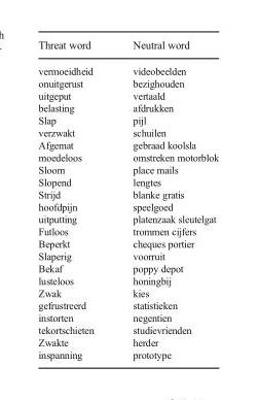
<table><thead><tr><td>Threat word</td><td>Neutral word</td></tr></thead><tbody><tr><td>vermoeidheid</td><td>videobeelden</td></tr><tr><td>onuitgerust</td><td>bezighouden</td></tr><tr><td>uitgeput</td><td>vertaald</td></tr><tr><td>belasting</td><td>afdrukken</td></tr><tr><td>Slap</td><td>pijl</td></tr><tr><td>verzwakt</td><td>schuilen</td></tr><tr><td>Afgemat</td><td>gebraad koolsla</td></tr><tr><td>moedeloos</td><td>omstreken motorblok</td></tr><tr><td>Sloom</td><td>place mails</td></tr><tr><td>Slopend</td><td>lengtes</td></tr><tr><td>Strijd</td><td>blanke gratis</td></tr><tr><td>hoofdpijn</td><td>speelgoed</td></tr><tr><td>uitputting</td><td>platenzaak sleutelgat</td></tr><tr><td>Futloos</td><td>trommen cijfers</td></tr><tr><td>Beperkt</td><td>cheques portier</td></tr><tr><td>Slaperig</td><td>voorruit</td></tr><tr><td>Bekaf</td><td>poppy depot</td></tr><tr><td>lusteloos</td><td>honingbij</td></tr><tr><td>Zwak</td><td>kies</td></tr><tr><td>gefrustreerd</td><td>statistieken</td></tr><tr><td>instorten</td><td>negentien</td></tr><tr><td>tekortschieten</td><td>studievrienden</td></tr><tr><td>Zwakte</td><td>herder</td></tr><tr><td>inspanning</td><td>prototype</td></tr></tbody></table>